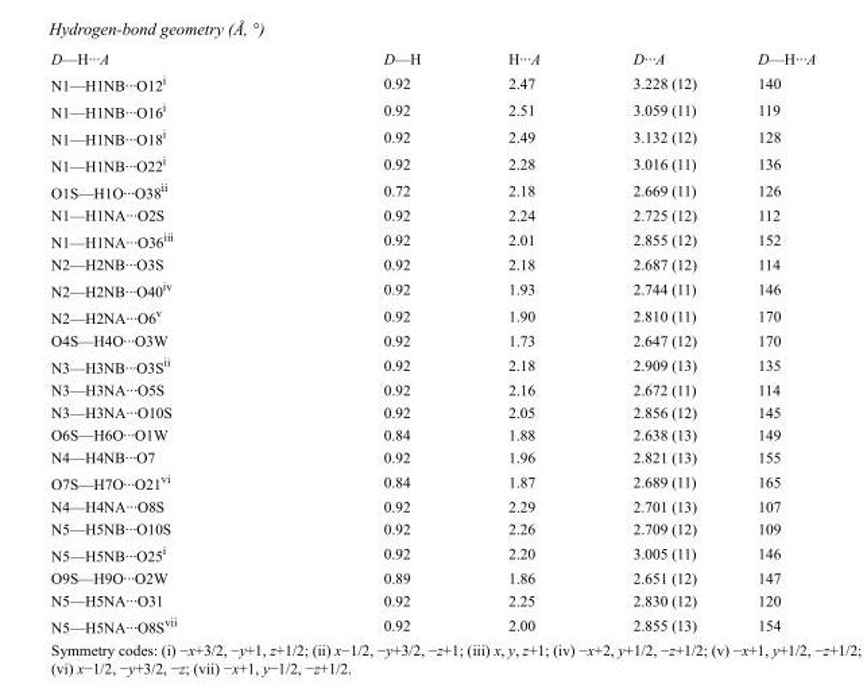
<table><tbody><tr><td>D—H···A</td><td>D—H</td><td>H···A</td><td>D···A</td><td>D—H···A</td></tr><tr><td>N1—H1NB···O12<sup>i</sup></td><td>0.92</td><td>2.47</td><td>3.228 (12)</td><td>140</td></tr><tr><td>N1—H1NB···O16<sup>i</sup></td><td>0.92</td><td>2.51</td><td>3.059 (11)</td><td>119</td></tr><tr><td>N1—H1NB···O18<sup>i</sup></td><td>0.92</td><td>2.49</td><td>3.132 (12)</td><td>128</td></tr><tr><td>N1—H1NB···O22<sup>i</sup></td><td>0.92</td><td>2.28</td><td>3.016 (11)</td><td>136</td></tr><tr><td>O1S—H1O···O38<sup>ii</sup></td><td>0.72</td><td>2.18</td><td>2.669 (11)</td><td>126</td></tr><tr><td>N1—H1NA···O2S</td><td>0.92</td><td>2.24</td><td>2.725 (12)</td><td>112</td></tr><tr><td>N1—H1NA···O36<sup>iii</sup></td><td>0.92</td><td>2.01</td><td>2.855 (12)</td><td>152</td></tr><tr><td>N2—H2NB···O3S</td><td>0.92</td><td>2.18</td><td>2.687 (12)</td><td>114</td></tr><tr><td>N2—H2NB···O40<sup>iv</sup></td><td>0.92</td><td>1.93</td><td>2.744 (11)</td><td>146</td></tr><tr><td>N2—H2NA···O6<sup>v</sup></td><td>0.92</td><td>1.90</td><td>2.810 (11)</td><td>170</td></tr><tr><td>O4S—H4O···O3W</td><td>0.92</td><td>1.73</td><td>2.647 (12)</td><td>170</td></tr><tr><td>N3—H3NB···O3S<sup>ii</sup></td><td>0.92</td><td>2.18</td><td>2.909 (13)</td><td>135</td></tr><tr><td>N3—H3NA···O5S</td><td>0.92</td><td>2.16</td><td>2.672 (11)</td><td>114</td></tr><tr><td>N3—H3NA···O10S</td><td>0.92</td><td>2.05</td><td>2.856 (12)</td><td>145</td></tr><tr><td>O6S—H6O···O1W</td><td>0.84</td><td>1.88</td><td>2.638 (13)</td><td>149</td></tr><tr><td>N4—H4NB···O7</td><td>0.92</td><td>1.96</td><td>2.821 (13)</td><td>155</td></tr><tr><td>O7S—H7O···O21<sup>vi</sup></td><td>0.84</td><td>1.87</td><td>2.689 (11)</td><td>165</td></tr><tr><td>N4—H4NA···O8S</td><td>0.92</td><td>2.29</td><td>2.701 (13)</td><td>107</td></tr><tr><td>N5—H5NB···O10S</td><td>0.92</td><td>2.26</td><td>2.709 (12)</td><td>109</td></tr><tr><td>N5—H5NB···O25<sup>i</sup></td><td>0.92</td><td>2.20</td><td>3.005 (11)</td><td>146</td></tr><tr><td>O9S—H9O···O2W</td><td>0.89</td><td>1.86</td><td>2.651 (12)</td><td>147</td></tr><tr><td>N5—H5NA···O31</td><td>0.92</td><td>2.25</td><td>2.830 (12)</td><td>120</td></tr><tr><td>N5—H5NA···O8S<sup>vii</sup></td><td>0.92</td><td>2.00</td><td>2.855 (13)</td><td>154</td></tr></tbody></table>